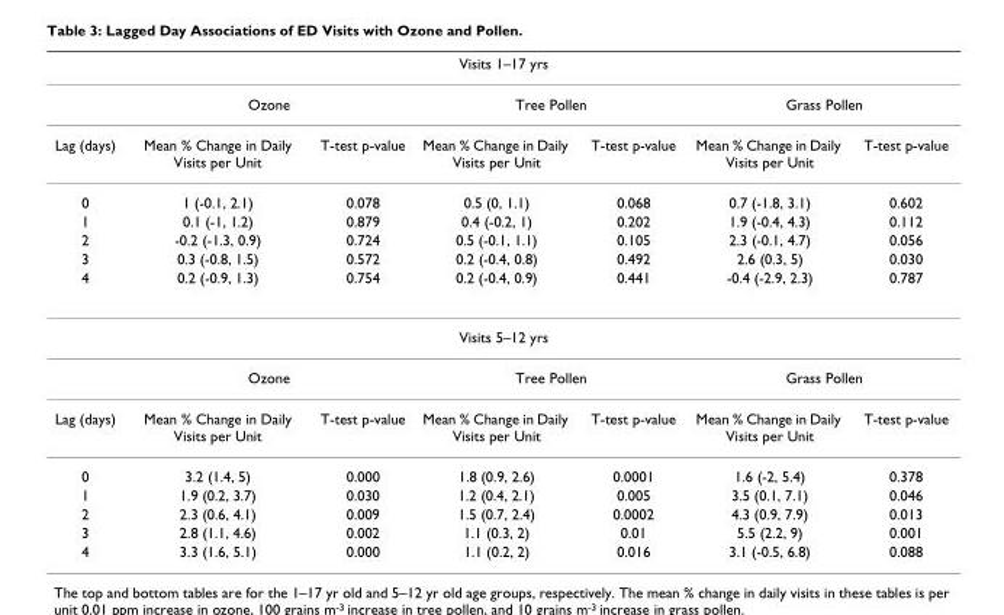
<table><thead><tr><td colspan="7">Visits 1–17 yrs</td></tr><tr><td rowspan="2">Lag (days)</td><td colspan="2">Ozone</td><td colspan="2">Tree Pollen</td><td colspan="2">Grass Pollen</td></tr><tr><td>Mean % Change in Daily Visits per Unit</td><td>T-test p-value</td><td>Mean % Change in Daily Visits per Unit</td><td>T-test p-value</td><td>Mean % Change in Daily Visits per Unit</td><td>T-test p-value</td></tr></thead><tbody><tr><td>0</td><td>1 (-0.1, 2.1)</td><td>0.078</td><td>0.5 (0, 1.1)</td><td>0.068</td><td>0.7 (-1.8, 3.1)</td><td>0.602</td></tr><tr><td>1</td><td>0.1 (-1, 1.2)</td><td>0.879</td><td>0.4 (-0.2, 1)</td><td>0.202</td><td>1.9 (-0.4, 4.3)</td><td>0.112</td></tr><tr><td>2</td><td>-0.2 (-1.3, 0.9)</td><td>0.724</td><td>0.5 (-0.1, 1.1)</td><td>0.105</td><td>2.3 (-0.1, 4.7)</td><td>0.056</td></tr><tr><td>3</td><td>0.3 (-0.8, 1.5)</td><td>0.572</td><td>0.2 (-0.4, 0.8)</td><td>0.492</td><td>2.6 (0.3, 5)</td><td>0.030</td></tr><tr><td>4</td><td>0.2 (-0.9, 1.3)</td><td>0.754</td><td>0.2 (-0.4, 0.9)</td><td>0.441</td><td>-0.4 (-2.9, 2.3)</td><td>0.787</td></tr><tr><td colspan="7">Visits 5–12 yrs</td></tr><tr><td></td><td colspan="2">Ozone</td><td colspan="2">Tree Pollen</td><td colspan="2">Grass Pollen</td></tr><tr><td>Lag (days)</td><td>Mean % Change in Daily Visits per Unit</td><td>T-test p-value</td><td>Mean % Change in Daily Visits per Unit</td><td>T-test p-value</td><td>Mean % Change in Daily Visits per Unit</td><td>T-test p-value</td></tr><tr><td>0</td><td>3.2 (1.4, 5)</td><td>0.000</td><td>1.8 (0.9, 2.6)</td><td>0.0001</td><td>1.6 (-2, 5.4)</td><td>0.378</td></tr><tr><td>1</td><td>1.9 (0.2, 3.7)</td><td>0.030</td><td>1.2 (0.4, 2.1)</td><td>0.005</td><td>3.5 (0.1, 7.1)</td><td>0.046</td></tr><tr><td>2</td><td>2.3 (0.6, 4.1)</td><td>0.009</td><td>1.5 (0.7, 2.4)</td><td>0.0002</td><td>4.3 (0.9, 7.9)</td><td>0.013</td></tr><tr><td>3</td><td>2.8 (1.1, 4.6)</td><td>0.002</td><td>1.1 (0.3, 2)</td><td>0.01</td><td>5.5 (2.2, 9)</td><td>0.001</td></tr><tr><td>4</td><td>3.3 (1.6, 5.1)</td><td>0.000</td><td>1.1 (0.2, 2)</td><td>0.016</td><td>3.1 (-0.5, 6.8)</td><td>0.088</td></tr></tbody></table>